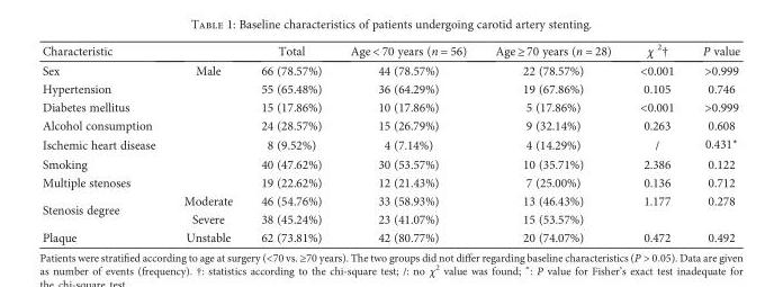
<table><thead><tr><td>Characteristic</td><td></td><td>Total</td><td>Age &lt; 70 years (n = 56)</td><td>Age ≥ 70 years (n = 28)</td><td>χ <sup>2</sup>†</td><td>P value</td></tr></thead><tbody><tr><td>Sex</td><td>Male</td><td>66 (78.57%)</td><td>44 (78.57%)</td><td>22 (78.57%)</td><td>&lt;0.001</td><td>&gt;0.999</td></tr><tr><td>Hypertension</td><td></td><td>55 (65.48%)</td><td>36 (64.29%)</td><td>19 (67.86%)</td><td>0.105</td><td>0.746</td></tr><tr><td>Diabetes mellitus</td><td></td><td>15 (17.86%)</td><td>10 (17.86%)</td><td>5 (17.86%)</td><td>&lt;0.001</td><td>&gt;0.999</td></tr><tr><td>Alcohol consumption</td><td></td><td>24 (28.57%)</td><td>15 (26.79%)</td><td>9 (32.14%)</td><td>0.263</td><td>0.608</td></tr><tr><td>Ischemic heart disease</td><td></td><td>8 (9.52%)</td><td>4 (7.14%)</td><td>4 (14.29%)</td><td>/</td><td>0.431∗</td></tr><tr><td>Smoking</td><td></td><td>40 (47.62%)</td><td>30 (53.57%)</td><td>10 (35.71%)</td><td>2.386</td><td>0.122</td></tr><tr><td>Multiple stenoses</td><td></td><td>19 (22.62%)</td><td>12 (21.43%)</td><td>7 (25.00%)</td><td>0.136</td><td>0.712</td></tr><tr><td rowspan="2">Stenosis degree</td><td>Moderate</td><td>46 (54.76%)</td><td>33 (58.93%)</td><td>13 (46.43%)</td><td>1.177</td><td>0.278</td></tr><tr><td>Severe</td><td>38 (45.24%)</td><td>23 (41.07%)</td><td>15 (53.57%)</td><td></td><td></td></tr><tr><td>Plaque</td><td>Unstable</td><td>62 (73.81%)</td><td>42 (80.77%)</td><td>20 (74.07%)</td><td>0.472</td><td>0.492</td></tr></tbody></table>